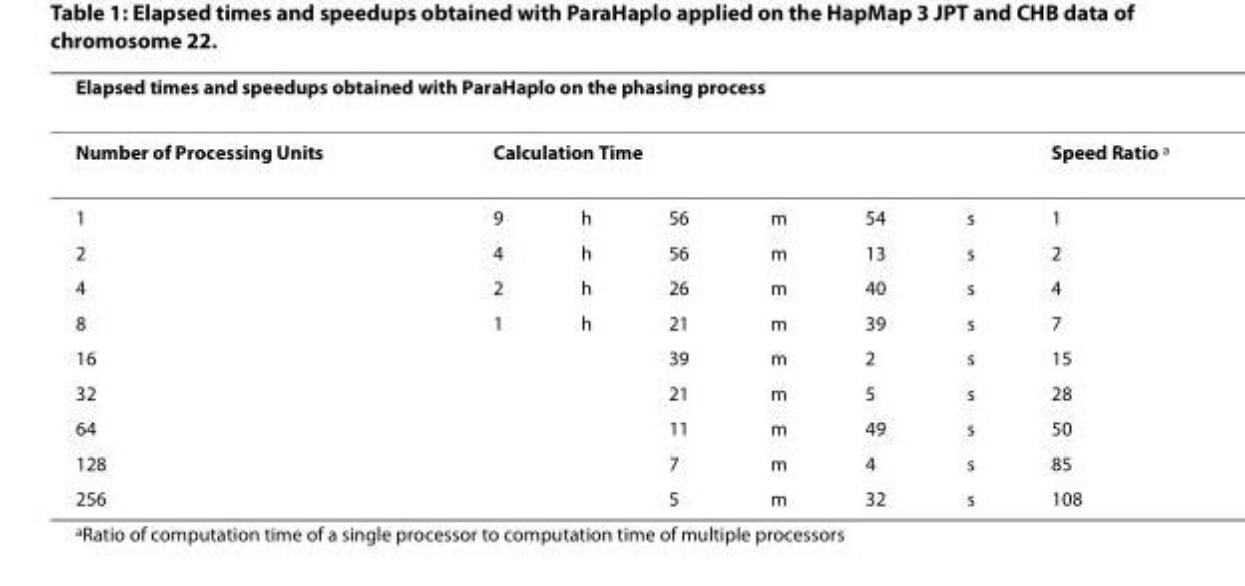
<table><thead><tr><td colspan="8">Elapsed times and speedups obtained with ParaHaplo on the phasing process</td></tr><tr><td rowspan="2">Number of Processing Units 1</td><td colspan="6">Calculation Time</td><td rowspan="2">Speed Ratio a 1</td></tr><tr><td>9</td><td>h</td><td>56</td><td>m</td><td>54</td><td>s</td></tr></thead><tbody><tr><td>2</td><td>4</td><td>h</td><td>56</td><td>m</td><td>13</td><td>s</td><td>2</td></tr><tr><td>4</td><td>2</td><td>h</td><td>26</td><td>m</td><td>40</td><td>s</td><td>4</td></tr><tr><td>8</td><td>1</td><td>h</td><td>21</td><td>m</td><td>39</td><td>s</td><td>7</td></tr><tr><td>16</td><td></td><td></td><td>39</td><td>m</td><td>2</td><td>s</td><td>15</td></tr><tr><td>32</td><td></td><td></td><td>21</td><td>m</td><td>5</td><td>s</td><td>28</td></tr><tr><td>64</td><td></td><td></td><td>11</td><td>m</td><td>49</td><td>s</td><td>50</td></tr><tr><td>128</td><td></td><td></td><td>7</td><td>m</td><td>4</td><td>s</td><td>85</td></tr><tr><td>256</td><td></td><td></td><td>5</td><td>m</td><td>32</td><td>s</td><td>108</td></tr></tbody></table>